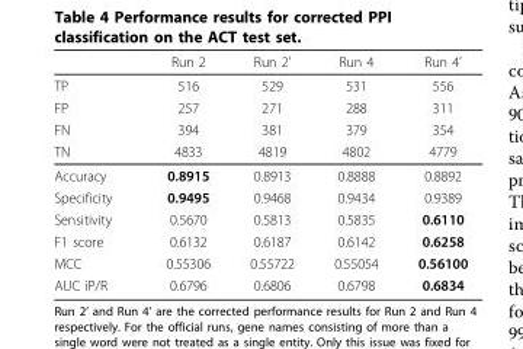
<table><thead><tr><td></td><td>Run 2</td><td>Run 2’</td><td>Run 4</td><td>Run 4’</td></tr></thead><tbody><tr><td>TP</td><td>516</td><td>529</td><td>531</td><td>556</td></tr><tr><td>FP</td><td>257</td><td>271</td><td>288</td><td>311</td></tr><tr><td>FN</td><td>394</td><td>381</td><td>379</td><td>354</td></tr><tr><td>TN</td><td>4833</td><td>4819</td><td>4802</td><td>4779</td></tr><tr><td>Accuracy</td><td>0.8915</td><td>0.8913</td><td>0.8888</td><td>0.8892</td></tr><tr><td>Specificity</td><td>0.9495</td><td>0.9468</td><td>0.9434</td><td>0.9389</td></tr><tr><td>Sensitivity</td><td>0.5670</td><td>0.5813</td><td>0.5835</td><td>0.6110</td></tr><tr><td>F1 score</td><td>0.6132</td><td>0.6187</td><td>0.6142</td><td>0.6258</td></tr><tr><td>MCC</td><td>0.55306</td><td>0.55722</td><td>0.55054</td><td>0.56100</td></tr><tr><td>AUC iP/R</td><td>0.6796</td><td>0.6806</td><td>0.6798</td><td>0.6834</td></tr></tbody></table>